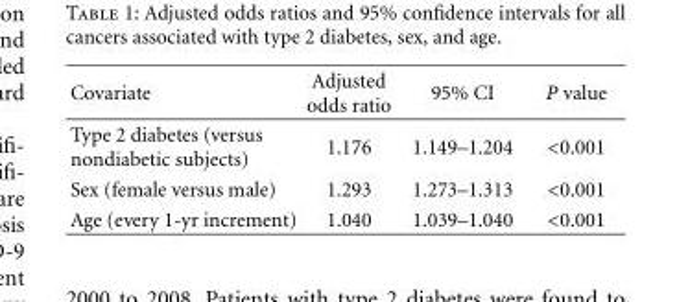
<table><thead><tr><td>Covariate</td><td>Adjusted odds ratio</td><td>95% CI</td><td>P value</td></tr></thead><tbody><tr><td>Type 2 diabetes (versus nondiabetic subjects)</td><td>1.176</td><td>1.149–1.204</td><td>&lt;0.001</td></tr><tr><td>Sex (female versus male)</td><td>1.293</td><td>1.273–1.313</td><td>&lt;0.001</td></tr><tr><td>Age (every 1-yr increment)</td><td>1.040</td><td>1.039–1.040</td><td>&lt;0.001</td></tr></tbody></table>